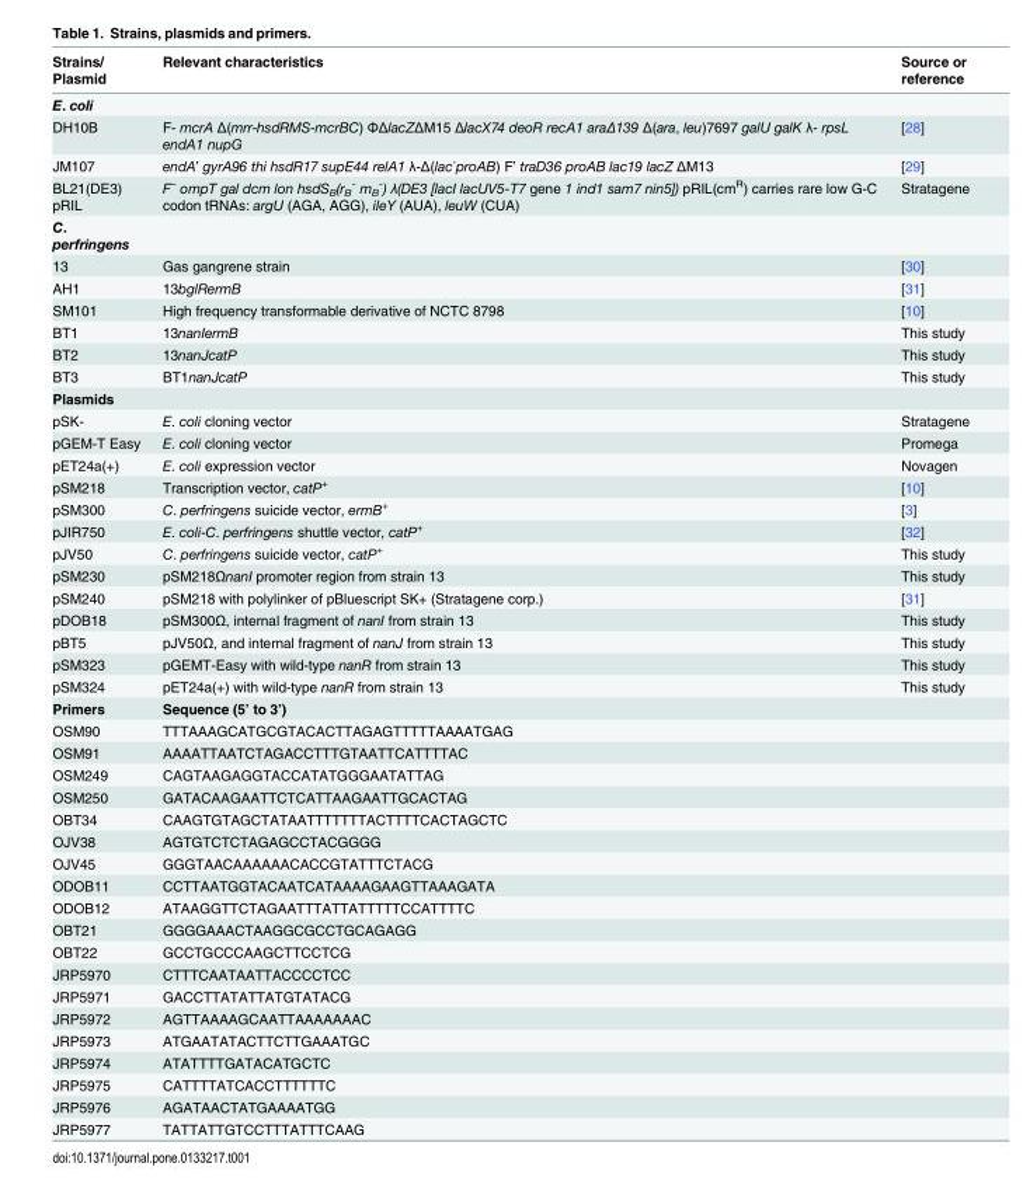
<table><thead><tr><td>Strains/ Plasmid</td><td>Relevant characteristics</td><td>Source or reference</td></tr></thead><tbody><tr><td colspan="3">E. coli</td></tr><tr><td>DH10B</td><td>F- mcrA Δ(mrr-hsdRMS-mcrBC) ΦΔlacZΔM15 ΔlacX74 deoR recA1 araΔ139 Δ(ara, leu)7697 galU galK λ- rpsL endA1 nupG</td><td>[28]</td></tr><tr><td>JM107</td><td>endA’ gyrA96 thi hsdR17 supE44 relA1 λ-Δ(lac<sup>-</sup>proAB) F’ traD36 proAB lac19 lacZ ΔM13</td><td>[29]</td></tr><tr><td>BL21(DE3) pRIL</td><td>F<sup>–</sup> ompT gal dcm lon hsdS<sub>B</sub>(r<sub>B</sub> <sup>-</sup> m<sub>B</sub> <sup>-</sup>) λ(DE3 [lacI lacUV5-T7 gene 1 ind1 sam7 nin5]) pRIL(cm<sup>R</sup>) carries rare low G-C codon tRNAs: argU (AGA, AGG), ileY (AUA), leuW (CUA)</td><td>Stratagene</td></tr><tr><td colspan="3">C. perfringens</td></tr><tr><td>13</td><td>Gas gangrene strain</td><td>[30]</td></tr><tr><td>AH1</td><td>13bglRermB</td><td>[31]</td></tr><tr><td>SM101</td><td>High frequency transformable derivative of NCTC 8798</td><td>[10]</td></tr><tr><td>BT1</td><td>13nanIermB</td><td>This study</td></tr><tr><td>BT2</td><td>13nanJcatP</td><td>This study</td></tr><tr><td>BT3</td><td>BT1nanJcatP</td><td>This study</td></tr><tr><td colspan="3">Plasmids</td></tr><tr><td>pSK-</td><td>E. coli cloning vector</td><td>Stratagene</td></tr><tr><td>pGEM-T Easy</td><td>E. coli cloning vector</td><td>Promega</td></tr><tr><td>pET24a(+)</td><td>E. coli expression vector</td><td>Novagen</td></tr><tr><td>pSM218</td><td>Transcription vector, catP<sup>+</sup></td><td>[10]</td></tr><tr><td>pSM300</td><td>C. perfringens suicide vector, ermB<sup>+</sup></td><td>[3]</td></tr><tr><td>pJIR750</td><td>E. coli-C. perfringens shuttle vector, catP<sup>+</sup></td><td>[32]</td></tr><tr><td>pJV50</td><td>C. perfringens suicide vector, catP<sup>+</sup></td><td>This study</td></tr><tr><td>pSM230</td><td>pSM218ΩnanI promoter region from strain 13</td><td>This study</td></tr><tr><td>pSM240</td><td>pSM218 with polylinker of pBluescript SK+ (Stratagene corp.)</td><td>[31]</td></tr><tr><td>pDOB18</td><td>pSM300Ω, internal fragment of nanI from strain 13</td><td>This study</td></tr><tr><td>pBT5</td><td>pJV50Ω, and internal fragment of nanJ from strain 13</td><td>This study</td></tr><tr><td>pSM323</td><td>pGEMT-Easy with wild-type nanR from strain 13</td><td>This study</td></tr><tr><td>pSM324</td><td>pET24a(+) with wild-type nanR from strain 13</td><td>This study</td></tr><tr><td>Primers</td><td>Sequence (5’ to 3’)</td><td></td></tr><tr><td>OSM90</td><td>TTTAAAGCATGCGTACACTTAGAGTTTTTAAAATGAG</td><td></td></tr><tr><td>OSM91</td><td>AAAATTAATCTAGACCTTTGTAATTCATTTTAC</td><td></td></tr><tr><td>OSM249</td><td>CAGTAAGAGGTACCATATGGGAATATTAG</td><td></td></tr><tr><td>OSM250</td><td>GATACAAGAATTCTCATTAAGAATTGCACTAG</td><td></td></tr><tr><td>OBT34</td><td>CAAGTGTAGCTATAATTTTTTTACTTTTCACTAGCTC</td><td></td></tr><tr><td>OJV38</td><td>AGTGTCTCTAGAGCCTACGGGG</td><td></td></tr><tr><td>OJV45</td><td>GGGTAACAAAAAACACCGTATTTCTACG</td><td></td></tr><tr><td>ODOB11</td><td>CCTTAATGGTACAATCATAAAAGAAGTTAAAGATA</td><td></td></tr><tr><td>ODOB12</td><td>ATAAGGTTCTAGAATTTATTATTTTTCCATTTTC</td><td></td></tr><tr><td>OBT21</td><td>GGGGAAACTAAGGCGCCTGCAGAGG</td><td></td></tr><tr><td>OBT22</td><td>GCCTGCCCAAGCTTCCTCG</td><td></td></tr><tr><td>JRP5970</td><td>CTTTCAATAATTACCCCTCC</td><td></td></tr><tr><td>JRP5971</td><td>GACCTTATATTATGTATACG</td><td></td></tr><tr><td>JRP5972</td><td>AGTTAAAAGCAATTAAAAAAAC</td><td></td></tr><tr><td>JRP5973</td><td>ATGAATATACTTCTTGAAATGC</td><td></td></tr><tr><td>JRP5974</td><td>ATATTTTGATACATGCTC</td><td></td></tr><tr><td>JRP5975</td><td>CATTTTATCACCTTTTTTC</td><td></td></tr><tr><td>JRP5976</td><td>AGATAACTATGAAAATGG</td><td></td></tr><tr><td>JRP5977</td><td>TATTATTGTCCTTTATTTCAAG</td><td></td></tr></tbody></table>